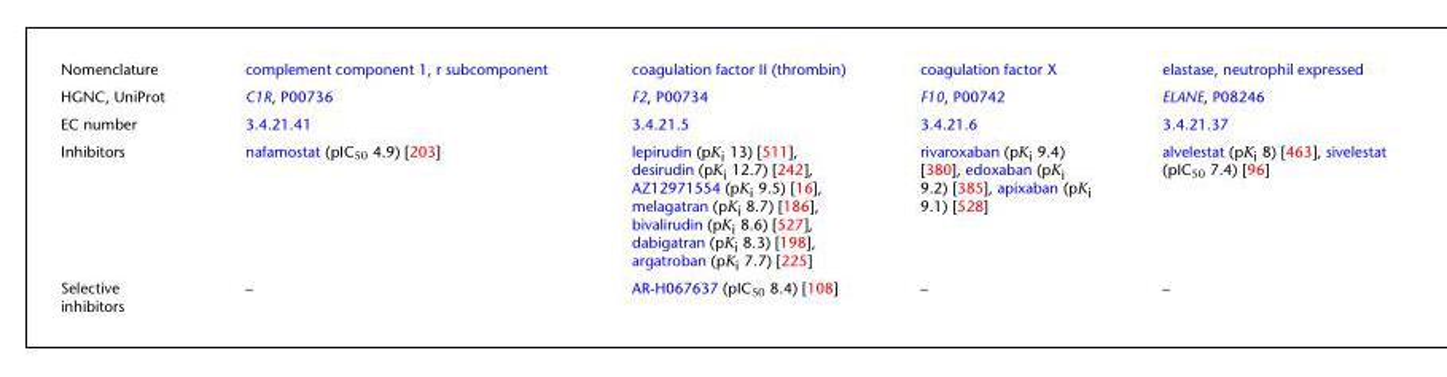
<table><tbody><tr><td>Nomenclature</td><td>complement component 1, r subcomponent</td><td>coagulation factor II (thrombin)</td><td>coagulation factor X</td><td>elastase, neutrophil expressed</td></tr><tr><td>HGNC, UniProt</td><td>C1R, P00736</td><td>F2, P00734</td><td>F10, P00742</td><td>ELANE, P08246</td></tr><tr><td>EC number</td><td>3.4.21.41</td><td>3.4.21.5</td><td>3.4.21.6</td><td>3.4.21.37</td></tr><tr><td>Inhibitors</td><td>nafamostat (pIC<sub>50</sub> 4.9) [203]</td><td>lepirudin (pK<sub>i</sub> 13) [511], desirudin (pK<sub>i</sub> 12.7) [242], AZ12971554 (pK<sub>i</sub> 9.5) [16], melagatran (pK<sub>i</sub> 8.7) [186], bivalirudin (pK<sub>i</sub> 8.6) [527], dabigatran (pK<sub>i</sub> 8.3) [198], argatroban (pK<sub>i</sub> 7.7) [225]</td><td>rivaroxaban (pK<sub>i</sub> 9.4) [380], edoxaban (pK<sub>i</sub> 9.2) [385], apixaban (pK<sub>i</sub> 9.1) [528]</td><td>alvelestat (pK<sub>i</sub> 8) [463], sivelestat (pIC<sub>50</sub> 7.4) [96]</td></tr><tr><td>Selective inhibitors</td><td>–</td><td>AR-H067637 (pIC<sub>50</sub> 8.4) [108]</td><td>–</td><td>–</td></tr></tbody></table>